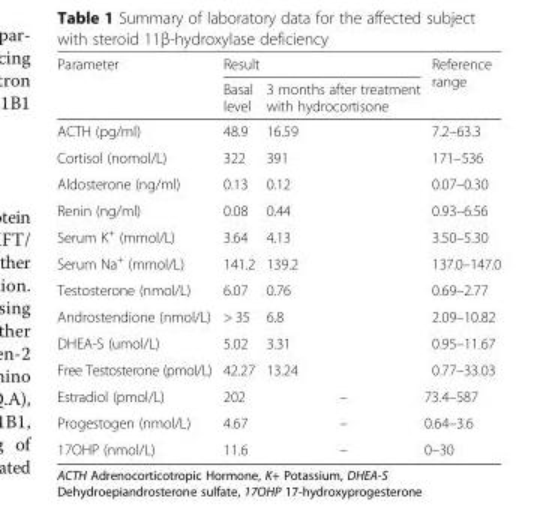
<table><thead><tr><td rowspan="2">Parameter</td><td colspan="2">Result</td><td rowspan="2">Reference range</td></tr><tr><td>Basal level</td><td>3 months after treatment with hydrocortisone</td></tr></thead><tbody><tr><td>ACTH (pg/ml)</td><td>48.9</td><td>16.59</td><td>7.2–63.3</td></tr><tr><td>Cortisol (nomol/L)</td><td>322</td><td>391</td><td>171–536</td></tr><tr><td>Aldosterone (ng/ml)</td><td>0.13</td><td>0.12</td><td>0.07–0.30</td></tr><tr><td>Renin (ng/ml)</td><td>0.08</td><td>0.44</td><td>0.93–6.56</td></tr><tr><td>Serum K<sup>+</sup> (mmol/L)</td><td>3.64</td><td>4.13</td><td>3.50–5.30</td></tr><tr><td>Serum Na<sup>+</sup> (mmol/L)</td><td>141.2</td><td>139.2</td><td>137.0–147.0</td></tr><tr><td>Testosterone (nmol/L)</td><td>6.07</td><td>0.76</td><td>0.69–2.77</td></tr><tr><td>Androstendione (nmol/L)</td><td>&gt; 35</td><td>6.8</td><td>2.09–10.82</td></tr><tr><td>DHEA-S (umol/L)</td><td>5.02</td><td>3.31</td><td>0.95–11.67</td></tr><tr><td>Free Testosterone (pmol/L)</td><td>42.27</td><td>13.24</td><td>0.77–33.03</td></tr><tr><td>Estradiol (pmol/L)</td><td>202</td><td>–</td><td>73.4–587</td></tr><tr><td>Progestogen (nmol/L)</td><td>4.67</td><td>–</td><td>0.64–3.6</td></tr><tr><td>17OHP (nmol/L)</td><td>11.6</td><td>–</td><td>0–30</td></tr></tbody></table>